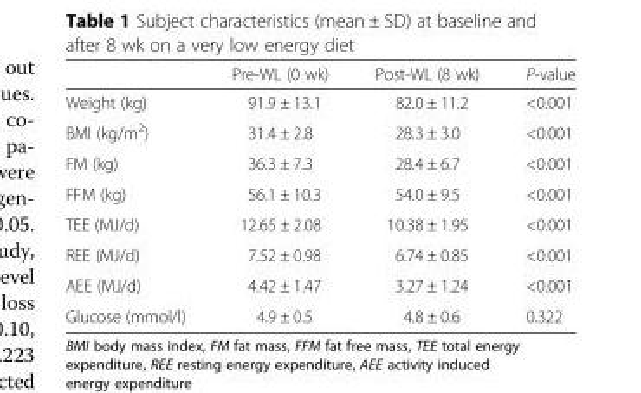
<table><thead><tr><td></td><td>Pre-WL (0 wk)</td><td>Post-WL (8 wk)</td><td>P-value</td></tr></thead><tbody><tr><td>Weight (kg)</td><td>91.9 ± 13.1</td><td>82.0 ± 11.2</td><td>&lt;0.001</td></tr><tr><td>BMI (kg/m<sup>2</sup>)</td><td>31.4 ± 2.8</td><td>28.3 ± 3.0</td><td>&lt;0.001</td></tr><tr><td>FM (kg)</td><td>36.3 ± 7.3</td><td>28.4 ± 6.7</td><td>&lt;0.001</td></tr><tr><td>FFM (kg)</td><td>56.1 ± 10.3</td><td>54.0 ± 9.5</td><td>&lt;0.001</td></tr><tr><td>TEE (MJ/d)</td><td>12.65 ± 2.08</td><td>10.38 ± 1.95</td><td>&lt;0.001</td></tr><tr><td>REE (MJ/d)</td><td>7.52 ± 0.98</td><td>6.74 ± 0.85</td><td>&lt;0.001</td></tr><tr><td>AEE (MJ/d)</td><td>4.42 ± 1.47</td><td>3.27 ± 1.24</td><td>&lt;0.001</td></tr><tr><td>Glucose (mmol/l)</td><td>4.9 ± 0.5</td><td>4.8 ± 0.6</td><td>0.322</td></tr></tbody></table>